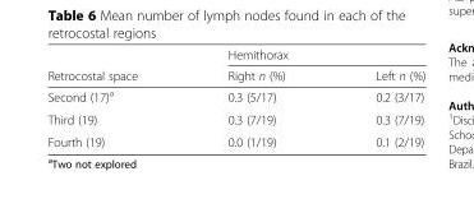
<table><thead><tr><td rowspan="2">Retrocostal space</td><td colspan="2">Hemithorax</td></tr><tr><td>Right n (%)</td><td>Left n (%)</td></tr></thead><tbody><tr><td>Second (17)<sup>a</sup></td><td>0.3 (5/17)</td><td>0.2 (3/17)</td></tr><tr><td>Third (19)</td><td>0.3 (7/19)</td><td>0.3 (7/19)</td></tr><tr><td>Fourth (19)</td><td>0.0 (1/19)</td><td>0.1 (2/19)</td></tr></tbody></table>